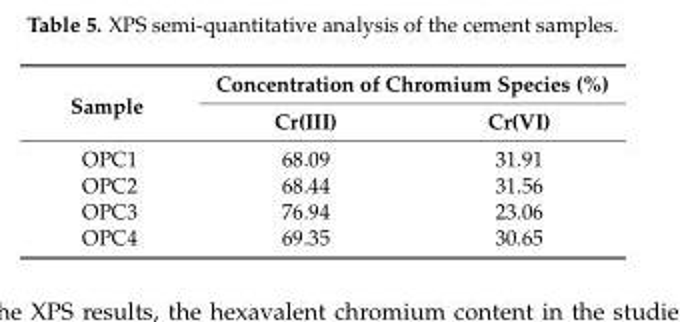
<table><thead><tr><td rowspan="2">Sample</td><td colspan="2">Concentration of Chromium Species (%)</td></tr><tr><td>Cr(III)</td><td>Cr(VI)</td></tr></thead><tbody><tr><td>OPC1</td><td>68.09</td><td>31.91</td></tr><tr><td>OPC2</td><td>68.44</td><td>31.56</td></tr><tr><td>OPC3</td><td>76.94</td><td>23.06</td></tr><tr><td>OPC4</td><td>69.35</td><td>30.65</td></tr></tbody></table>